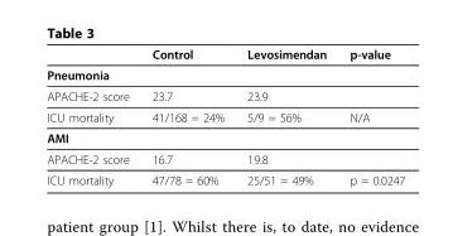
<table><thead><tr><td></td><td>Control</td><td>Levosimendan</td><td>p-value</td></tr></thead><tbody><tr><td colspan="4">Pneumonia</td></tr><tr><td>APACHE-2 score</td><td>23.7</td><td>23.9</td><td></td></tr><tr><td>ICU mortality</td><td>41/168 = 24%</td><td>5/9 = 56%</td><td>N/A</td></tr><tr><td colspan="4">AMI</td></tr><tr><td>APACHE-2 score</td><td>16.7</td><td>19.8</td><td></td></tr><tr><td>ICU mortality</td><td>47/78 = 60%</td><td>25/51 = 49%</td><td>p = 0.0247</td></tr></tbody></table>